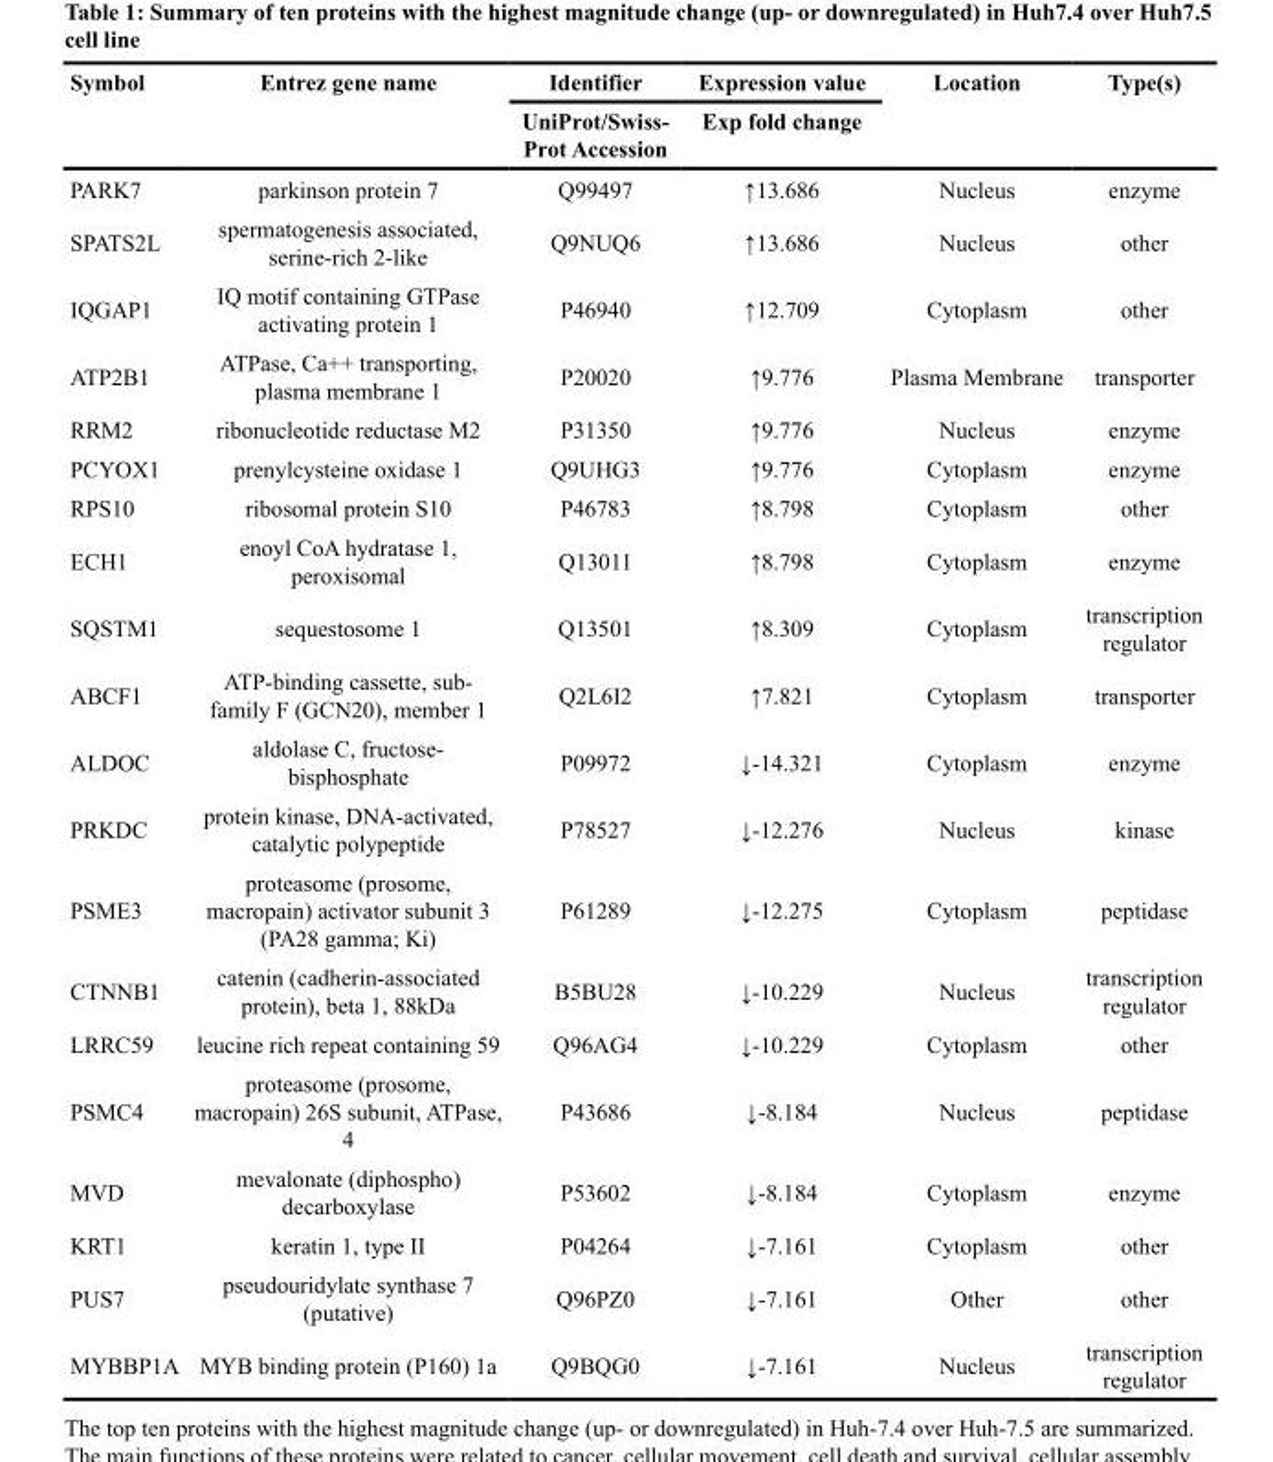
<table><thead><tr><td rowspan="2">Symbol</td><td rowspan="2">Entrez gene name</td><td rowspan="2">Identifier UniProt/Swiss- Prot Accession</td><td rowspan="2">Expression value Exp fold change</td><td rowspan="2">Location</td><td rowspan="2">Type(s)</td></tr><tr></tr></thead><tbody><tr><td>PARK7</td><td>parkinson protein 7</td><td>Q99497</td><td>↑13.686</td><td>Nucleus</td><td>enzyme</td></tr><tr><td>SPATS2L</td><td>spermatogenesis associated, serine-rich 2-like</td><td>Q9NUQ6</td><td>↑13.686</td><td>Nucleus</td><td>other</td></tr><tr><td>IQGAP1</td><td>IQ motif containing GTPase activating protein 1</td><td>P46940</td><td>↑12.709</td><td>Cytoplasm</td><td>other</td></tr><tr><td>ATP2B1</td><td>ATPase, Ca++ transporting, plasma membrane 1</td><td>P20020</td><td>↑9.776</td><td>Plasma Membrane</td><td>transporter</td></tr><tr><td>RRM2</td><td>ribonucleotide reductase M2</td><td>P31350</td><td>↑9.776</td><td>Nucleus</td><td>enzyme</td></tr><tr><td>PCYOX1</td><td>prenylcysteine oxidase 1</td><td>Q9UHG3</td><td>↑9.776</td><td>Cytoplasm</td><td>enzyme</td></tr><tr><td>RPS10</td><td>ribosomal protein S10</td><td>P46783</td><td>↑8.798</td><td>Cytoplasm</td><td>other</td></tr><tr><td>ECH1</td><td>enoyl CoA hydratase 1, peroxisomal</td><td>Q13011</td><td>↑8.798</td><td>Cytoplasm</td><td>enzyme</td></tr><tr><td>SQSTM1</td><td>sequestosome 1</td><td>Q13501</td><td>↑8.309</td><td>Cytoplasm</td><td>transcription regulator</td></tr><tr><td>ABCF1</td><td>ATP-binding cassette, sub- family F (GCN20), member 1</td><td>Q2L6I2</td><td>↑7.821</td><td>Cytoplasm</td><td>transporter</td></tr><tr><td>ALDOC</td><td>aldolase C, fructose- bisphosphate</td><td>P09972</td><td>↓-14.321</td><td>Cytoplasm</td><td>enzyme</td></tr><tr><td>PRKDC</td><td>protein kinase, DNA-activated, catalytic polypeptide</td><td>P78527</td><td>↓-12.276</td><td>Nucleus</td><td>kinase</td></tr><tr><td>PSME3</td><td>proteasome (prosome, macropain) activator subunit 3 (PA28 gamma; Ki)</td><td>P61289</td><td>↓-12.275</td><td>Cytoplasm</td><td>peptidase</td></tr><tr><td>CTNNB1</td><td>catenin (cadherin-associated protein), beta 1, 88kDa</td><td>B5BU28</td><td>↓-10.229</td><td>Nucleus</td><td>transcription regulator</td></tr><tr><td>LRRC59</td><td>leucine rich repeat containing 59</td><td>Q96AG4</td><td>↓-10.229</td><td>Cytoplasm</td><td>other</td></tr><tr><td>PSMC4</td><td>proteasome (prosome, macropain) 26S subunit, ATPase, 4</td><td>P43686</td><td>↓-8.184</td><td>Nucleus</td><td>peptidase</td></tr><tr><td>MVD</td><td>mevalonate (diphospho) decarboxylase</td><td>P53602</td><td>↓-8.184</td><td>Cytoplasm</td><td>enzyme</td></tr><tr><td>KRT1</td><td>keratin 1, type II</td><td>P04264</td><td>↓-7.161</td><td>Cytoplasm</td><td>other</td></tr><tr><td>PUS7</td><td>pseudouridylate synthase 7 (putative)</td><td>Q96PZ0</td><td>↓-7.161</td><td>Other</td><td>other</td></tr><tr><td>MYBBP1A</td><td>MYB binding protein (P160) 1a</td><td>Q9BQG0</td><td>↓-7.161</td><td>Nucleus</td><td>transcription regulator</td></tr></tbody></table>